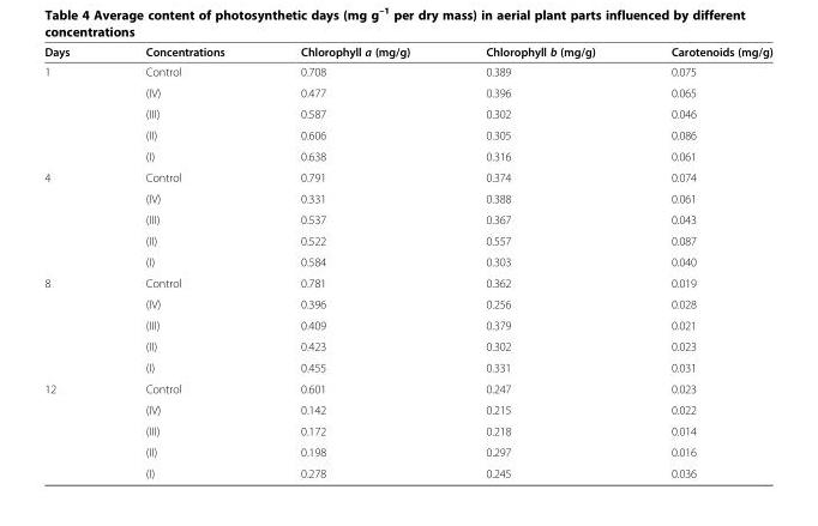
<table><thead><tr><td>Days</td><td>Concentrations</td><td>Chlorophyll a (mg/g)</td><td>Chlorophyll b (mg/g)</td><td>Carotenoids (mg/g)</td></tr></thead><tbody><tr><td rowspan="5">1</td><td>Control</td><td>0.708</td><td>0.389</td><td>0.075</td></tr><tr><td>(IV)</td><td>0.477</td><td>0.396</td><td>0.065</td></tr><tr><td>(III)</td><td>0.587</td><td>0.302</td><td>0.046</td></tr><tr><td>(II)</td><td>0.606</td><td>0.305</td><td>0.086</td></tr><tr><td>(I)</td><td>0.638</td><td>0.316</td><td>0.061</td></tr><tr><td rowspan="5">4</td><td>Control</td><td>0.791</td><td>0.374</td><td>0.074</td></tr><tr><td>(IV)</td><td>0.331</td><td>0.388</td><td>0.061</td></tr><tr><td>(III)</td><td>0.537</td><td>0.367</td><td>0.043</td></tr><tr><td>(II)</td><td>0.522</td><td>0.557</td><td>0.087</td></tr><tr><td>(I)</td><td>0.584</td><td>0.303</td><td>0.040</td></tr><tr><td rowspan="5">8</td><td>Control</td><td>0.781</td><td>0.362</td><td>0.019</td></tr><tr><td>(IV)</td><td>0.396</td><td>0.256</td><td>0.028</td></tr><tr><td>(III)</td><td>0.409</td><td>0.379</td><td>0.021</td></tr><tr><td>(II)</td><td>0.423</td><td>0.302</td><td>0.023</td></tr><tr><td>(I)</td><td>0.455</td><td>0.331</td><td>0.031</td></tr><tr><td rowspan="5">12</td><td>Control</td><td>0.601</td><td>0.247</td><td>0.023</td></tr><tr><td>(IV)</td><td>0.142</td><td>0.215</td><td>0.022</td></tr><tr><td>(III)</td><td>0.172</td><td>0.218</td><td>0.014</td></tr><tr><td>(II)</td><td>0.198</td><td>0.297</td><td>0.016</td></tr><tr><td>(I)</td><td>0.278</td><td>0.245</td><td>0.036</td></tr></tbody></table>